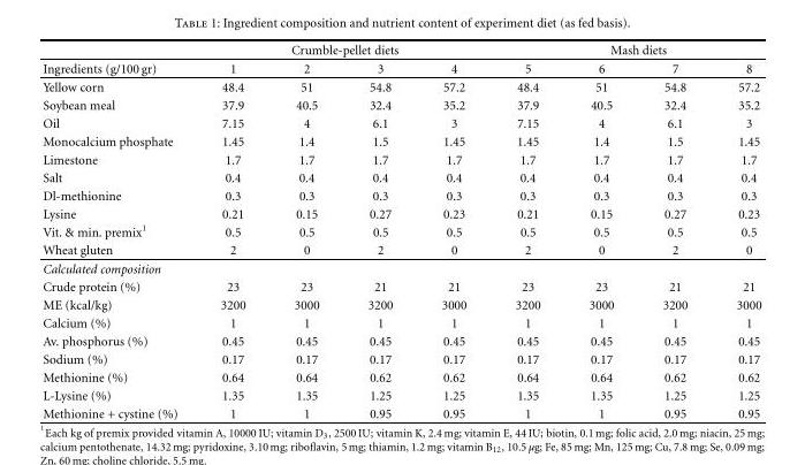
<table><thead><tr><td rowspan="2">Ingredients (g/100gr)</td><td colspan="4">Crumble-pellet diets</td><td colspan="4">Mash diets</td></tr><tr><td>1</td><td>2</td><td>3</td><td>4</td><td>5</td><td>6</td><td>7</td><td>8</td></tr></thead><tbody><tr><td>Yellow corn</td><td>48.4</td><td>51</td><td>54.8</td><td>57.2</td><td>48.4</td><td>51</td><td>54.8</td><td>57.2</td></tr><tr><td>Soybean meal</td><td>37.9</td><td>40.5</td><td>32.4</td><td>35.2</td><td>37.9</td><td>40.5</td><td>32.4</td><td>35.2</td></tr><tr><td>Oil</td><td>7.15</td><td>4</td><td>6.1</td><td>3</td><td>7.15</td><td>4</td><td>6.1</td><td>3</td></tr><tr><td>Monocalcium phosphate</td><td>1.45</td><td>1.4</td><td>1.5</td><td>1.45</td><td>1.45</td><td>1.4</td><td>1.5</td><td>1.45</td></tr><tr><td>Limestone</td><td>1.7</td><td>1.7</td><td>1.7</td><td>1.7</td><td>1.7</td><td>1.7</td><td>1.7</td><td>1.7</td></tr><tr><td>Salt</td><td>0.4</td><td>0.4</td><td>0.4</td><td>0.4</td><td>0.4</td><td>0.4</td><td>0.4</td><td>0.4</td></tr><tr><td>Dl-methionine</td><td>0.3</td><td>0.3</td><td>0.3</td><td>0.3</td><td>0.3</td><td>0.3</td><td>0.3</td><td>0.3</td></tr><tr><td>Lysine</td><td>0.21</td><td>0.15</td><td>0.27</td><td>0.23</td><td>0.21</td><td>0.15</td><td>0.27</td><td>0.23</td></tr><tr><td>Vit. &amp; min. premix<sup>1</sup></td><td>0.5</td><td>0.5</td><td>0.5</td><td>0.5</td><td>0.5</td><td>0.5</td><td>0.5</td><td>0.5</td></tr><tr><td>Wheat gluten</td><td>2</td><td>0</td><td>2</td><td>0</td><td>2</td><td>0</td><td>2</td><td>0</td></tr><tr><td colspan="9">Calculated composition</td></tr><tr><td>Crude protein (%)</td><td>23</td><td>23</td><td>21</td><td>21</td><td>23</td><td>23</td><td>21</td><td>21</td></tr><tr><td>ME (kcal/kg)</td><td>3200</td><td>3000</td><td>3200</td><td>3000</td><td>3200</td><td>3000</td><td>3200</td><td>3000</td></tr><tr><td>Calcium (%)</td><td>1</td><td>1</td><td>1</td><td>1</td><td>1</td><td>1</td><td>1</td><td>1</td></tr><tr><td>Av. phosphorus (%)</td><td>0.45</td><td>0.45</td><td>0.45</td><td>0.45</td><td>0.45</td><td>0.45</td><td>0.45</td><td>0.45</td></tr><tr><td>Sodium (%)</td><td>0.17</td><td>0.17</td><td>0.17</td><td>0.17</td><td>0.17</td><td>0.17</td><td>0.17</td><td>0.17</td></tr><tr><td>Methionine (%)</td><td>0.64</td><td>0.64</td><td>0.62</td><td>0.62</td><td>0.64</td><td>0.64</td><td>0.62</td><td>0.62</td></tr><tr><td>L-Lysine (%)</td><td>1.35</td><td>1.35</td><td>1.25</td><td>1.25</td><td>1.35</td><td>1.35</td><td>1.25</td><td>1.25</td></tr><tr><td>Methionine + cystine (%)</td><td>1</td><td>1</td><td>0.95</td><td>0.95</td><td>1</td><td>1</td><td>0.95</td><td>0.95</td></tr></tbody></table>